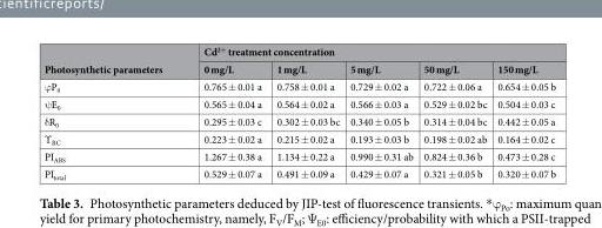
<table><thead><tr><td rowspan="2">Photosynthetic parameters</td><td colspan="5">Cd<sup>2+</sup> treatment concentration</td></tr><tr><td>0 mg/L</td><td>1 mg/L</td><td>5 mg/L</td><td>50 mg/L</td><td>150 mg/L</td></tr></thead><tbody><tr><td>ϕP<sub>0</sub></td><td>0.765 ± 0.01 a</td><td>0.758 ± 0.01 a</td><td>0.729 ± 0.02 a</td><td>0.722 ± 0.06 a</td><td>0.654 ± 0.05 b</td></tr><tr><td>ψE<sub>0</sub></td><td>0.565 ± 0.04 a</td><td>0.564 ± 0.02 a</td><td>0.566 ± 0.03 a</td><td>0.529 ± 0.02 bc</td><td>0.504 ± 0.03 c</td></tr><tr><td>δR<sub>0</sub></td><td>0.295 ± 0.03 c</td><td>0.302 ± 0.03 bc</td><td>0.340 ± 0.05 b</td><td>0.314 ± 0.04 bc</td><td>0.442 ± 0.05 a</td></tr><tr><td>ϒ<sub>RC</sub></td><td>0.223 ± 0.02 a</td><td>0.215 ± 0.02 a</td><td>0.193 ± 0.03 b</td><td>0.198 ± 0.02 ab</td><td>0.164 ± 0.02 c</td></tr><tr><td>PI<sub>ABS</sub></td><td>1.267 ± 0.38 a</td><td>1.134 ± 0.22 a</td><td>0.990 ± 0.31 ab</td><td>0.824 ± 0.36 b</td><td>0.473 ± 0.28 c</td></tr><tr><td>PI<sub>total</sub></td><td>0.529 ± 0.07 a</td><td>0.491 ± 0.09 a</td><td>0.429 ± 0.07 a</td><td>0.321 ± 0.05 b</td><td>0.320 ± 0.07 b</td></tr></tbody></table>